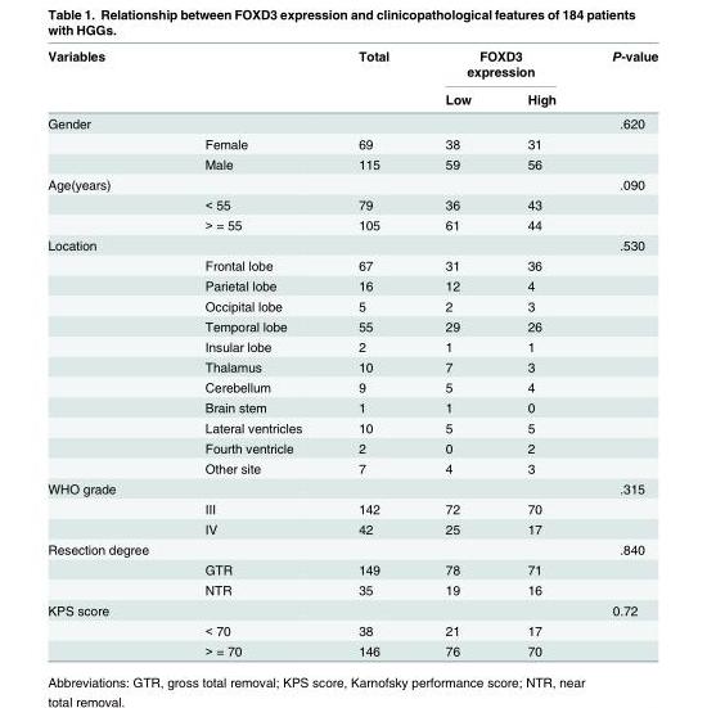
<table><thead><tr><td rowspan="2">Variables</td><td rowspan="2"></td><td rowspan="2">Total</td><td colspan="2">FOXD3 expression</td><td rowspan="2">P-value</td></tr><tr><td>Low</td><td>High</td></tr></thead><tbody><tr><td rowspan="3">Gender</td><td></td><td></td><td></td><td></td><td>.620</td></tr><tr><td>Female</td><td>69</td><td>38</td><td>31</td><td></td></tr><tr><td>Male</td><td>115</td><td>59</td><td>56</td><td></td></tr><tr><td rowspan="3">Age(years)</td><td></td><td></td><td></td><td></td><td>.090</td></tr><tr><td>&lt; 55</td><td>79</td><td>36</td><td>43</td><td></td></tr><tr><td>&gt; = 55</td><td>105</td><td>61</td><td>44</td><td></td></tr><tr><td rowspan="12">Location</td><td></td><td></td><td></td><td></td><td>.530</td></tr><tr><td>Frontal lobe</td><td>67</td><td>31</td><td>36</td><td></td></tr><tr><td>Parietal lobe</td><td>16</td><td>12</td><td>4</td><td></td></tr><tr><td>Occipital lobe</td><td>5</td><td>2</td><td>3</td><td></td></tr><tr><td>Temporal lobe</td><td>55</td><td>29</td><td>26</td><td></td></tr><tr><td>Insular lobe</td><td>2</td><td>1</td><td>1</td><td></td></tr><tr><td>Thalamus</td><td>10</td><td>7</td><td>3</td><td></td></tr><tr><td>Cerebellum</td><td>9</td><td>5</td><td>4</td><td></td></tr><tr><td>Brain stem</td><td>1</td><td>1</td><td>0</td><td></td></tr><tr><td>Lateral ventricles</td><td>10</td><td>5</td><td>5</td><td></td></tr><tr><td>Fourth ventricle</td><td>2</td><td>0</td><td>2</td><td></td></tr><tr><td>Other site</td><td>7</td><td>4</td><td>3</td><td></td></tr><tr><td rowspan="3">WHO grade</td><td></td><td></td><td></td><td></td><td>.315</td></tr><tr><td>III</td><td>142</td><td>72</td><td>70</td><td></td></tr><tr><td>IV</td><td>42</td><td>25</td><td>17</td><td></td></tr><tr><td rowspan="3">Resection degree</td><td></td><td></td><td></td><td></td><td>.840</td></tr><tr><td>GTR</td><td>149</td><td>78</td><td>71</td><td></td></tr><tr><td>NTR</td><td>35</td><td>19</td><td>16</td><td></td></tr><tr><td rowspan="3">KPS score</td><td></td><td></td><td></td><td></td><td>0.72</td></tr><tr><td>&lt; 70</td><td>38</td><td>21</td><td>17</td><td></td></tr><tr><td>&gt; = 70</td><td>146</td><td>76</td><td>70</td><td></td></tr></tbody></table>